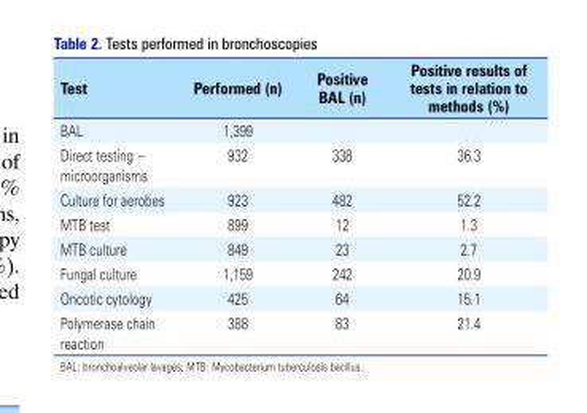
<table><thead><tr><td>Test</td><td>Performed (n)</td><td>Positive BAL (n)</td><td>Positive results of tests in relation to methods (%)</td></tr></thead><tbody><tr><td>BAL</td><td>1,399</td><td></td><td></td></tr><tr><td>Direct testing − microorganisms</td><td>932</td><td>338</td><td>36.3</td></tr><tr><td>Culture for aerobes</td><td>923</td><td>482</td><td>52.2</td></tr><tr><td>MTB test</td><td>899</td><td>12</td><td>1.3</td></tr><tr><td>MTB culture</td><td>849</td><td>23</td><td>2.7</td></tr><tr><td>Fungal culture</td><td>1,159</td><td>242</td><td>20.9</td></tr><tr><td>Oncotic cytology</td><td>425</td><td>64</td><td>15.1</td></tr><tr><td>Polymerase chain reaction</td><td>388</td><td>83</td><td>21.4</td></tr></tbody></table>